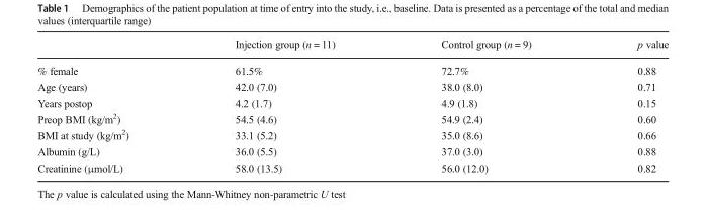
<table><thead><tr><td></td><td>Injection group (n = 11)</td><td>Control group (n = 9)</td><td>p value</td></tr></thead><tbody><tr><td>% female</td><td>61.5%</td><td>72.7%</td><td>0.88</td></tr><tr><td>Age (years)</td><td>42.0 (7.0)</td><td>38.0 (8.0)</td><td>0.71</td></tr><tr><td>Years postop</td><td>4.2 (1.7)</td><td>4.9 (1.8)</td><td>0.15</td></tr><tr><td>Preop BMI (kg/m<sup>2</sup>)</td><td>54.5 (4.6)</td><td>54.9 (2.4)</td><td>0.60</td></tr><tr><td>BMI at study (kg/m<sup>2</sup>)</td><td>33.1 (5.2)</td><td>35.0 (8.6)</td><td>0.66</td></tr><tr><td>Albumin (g/L)</td><td>36.0 (5.5)</td><td>37.0 (3.0)</td><td>0.88</td></tr><tr><td>Creatinine (μmol/L)</td><td>58.0 (13.5)</td><td>56.0 (12.0)</td><td>0.82</td></tr></tbody></table>